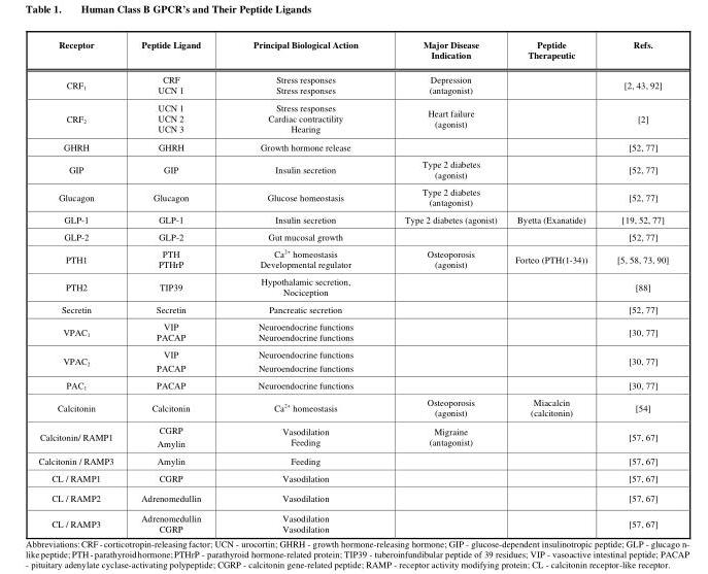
<table><thead><tr><td>Receptor</td><td>Peptide Ligand</td><td>Principal Biological Action</td><td>Major Disease Indication</td><td>Peptide Therapeutic</td><td>Refs.</td></tr></thead><tbody><tr><td>CRF<sub>1</sub></td><td>CRF UCN 1</td><td>Stress responses Stress responses</td><td>Depression (antagonist)</td><td></td><td>[2, 43, 92]</td></tr><tr><td>CRF<sub>2</sub></td><td>UCN 1 UCN 2 UCN 3</td><td>Stress responses Cardiac contractility Hearing</td><td>Heart failure (agonist)</td><td></td><td>[2]</td></tr><tr><td>GHRH</td><td>GHRH</td><td>Growth hormone release</td><td></td><td></td><td>[52, 77]</td></tr><tr><td>GIP</td><td>GIP</td><td>Insulin secretion</td><td>Type 2 diabetes (agonist)</td><td></td><td>[52, 77]</td></tr><tr><td>Glucagon</td><td>Glucagon</td><td>Glucose homeostasis</td><td>Type 2 diabetes (antagonist)</td><td></td><td>[52, 77]</td></tr><tr><td>GLP-1</td><td>GLP-1</td><td>Insulin secretion</td><td>Type 2 diabetes (agonist)</td><td>Byetta (Exanatide)</td><td>[19, 52, 77]</td></tr><tr><td>GLP-2</td><td>GLP-2</td><td>Gut mucosal growth</td><td></td><td></td><td>[52, 77]</td></tr><tr><td>PTH1</td><td>PTH PTHrP</td><td>Ca<sup>2+</sup> homeostasis Developmental regulator</td><td>Osteoporosis (agonist)</td><td>Forteo (PTH(1-34))</td><td>[5, 58, 73, 90]</td></tr><tr><td>PTH2</td><td>TIP39</td><td>Hypothalamic secretion, Nociception</td><td></td><td></td><td>[88]</td></tr><tr><td>Secretin</td><td>Secretin</td><td>Pancreatic secretion</td><td></td><td></td><td>[52, 77]</td></tr><tr><td>VPAC<sub>1</sub></td><td>VIP PACAP</td><td>Neuroendocrine functions Neuroendocrine functions</td><td></td><td></td><td>[30, 77]</td></tr><tr><td>VPAC<sub>2</sub></td><td>VIP PACAP</td><td>Neuroendocrine functions Neuroendocrine functions</td><td></td><td></td><td>[30, 77]</td></tr><tr><td>PAC<sub>1</sub></td><td>PACAP</td><td>Neuroendocrine functions</td><td></td><td></td><td>[30, 77]</td></tr><tr><td>Calcitonin</td><td>Calcitonin</td><td>Ca<sup>2+</sup> homeostasis</td><td>Osteoporosis (agonist)</td><td>Miacalcin (calcitonin)</td><td>[54]</td></tr><tr><td>Calcitonin/ RAMP1</td><td>CGRP Amylin</td><td>Vasodilation Feeding</td><td>Migraine (antagonist)</td><td></td><td>[57, 67]</td></tr><tr><td>Calcitonin / RAMP3</td><td>Amylin</td><td>Feeding</td><td></td><td></td><td>[57, 67]</td></tr><tr><td>CL / RAMP1</td><td>CGRP</td><td>Vasodilation</td><td></td><td></td><td>[57, 67]</td></tr><tr><td>CL / RAMP2</td><td>Adrenomedullin</td><td>Vasodilation</td><td></td><td></td><td>[57, 67]</td></tr><tr><td>CL / RAMP3</td><td>Adrenomedullin CGRP</td><td>Vasodilation Vasodilation</td><td></td><td></td><td>[57, 67]</td></tr></tbody></table>